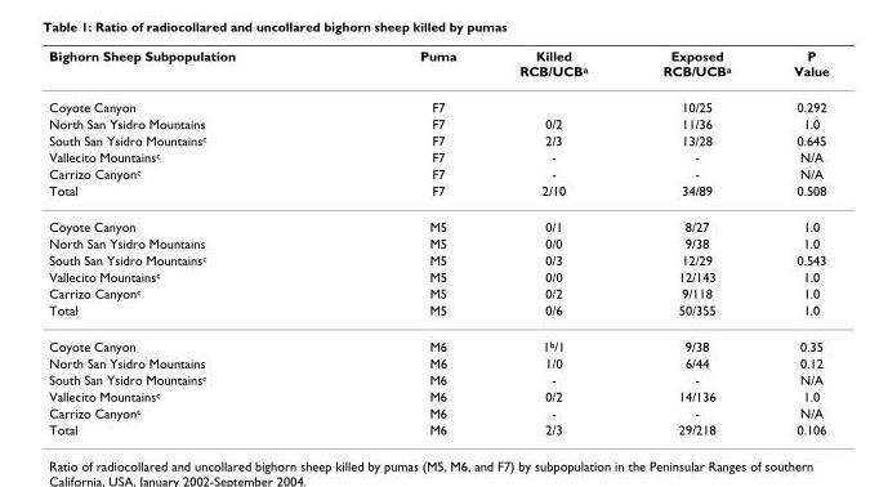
<table><thead><tr><td>Bighorn Sheep Subpopulation</td><td>Puma</td><td>Killed RCB/UCB<sup>a</sup></td><td>Exposed RCB/UCB<sup>a</sup></td><td>P Value</td></tr></thead><tbody><tr><td>Coyote Canyon</td><td>F7</td><td></td><td>10/25</td><td>0.292</td></tr><tr><td>North San Ysidro Mountains</td><td>F7</td><td>0/2</td><td>11/36</td><td>1.0</td></tr><tr><td>South San Ysidro Mountains<sup>c</sup></td><td>F7</td><td>2/3</td><td>13/28</td><td>0.645</td></tr><tr><td>Vallecito Mountains<sup>c</sup></td><td>F7</td><td>-</td><td>-</td><td>N/A</td></tr><tr><td>Carrizo Canyon<sup>c</sup></td><td>F7</td><td>-</td><td>-</td><td>N/A</td></tr><tr><td>Total</td><td>F7</td><td>2/10</td><td>34/89</td><td>0.508</td></tr><tr><td>Coyote Canyon</td><td>M5</td><td>0/1</td><td>8/27</td><td>1.0</td></tr><tr><td>North San Ysidro Mountains</td><td>M5</td><td>0/0</td><td>9/38</td><td>1.0</td></tr><tr><td>South San Ysidro Mountains<sup>c</sup></td><td>M5</td><td>0/3</td><td>12/29</td><td>0.543</td></tr><tr><td>Vallecito Mountains<sup>c</sup></td><td>M5</td><td>0/0</td><td>12/143</td><td>1.0</td></tr><tr><td>Carrizo Canyon<sup>c</sup></td><td>M5</td><td>0/2</td><td>9/118</td><td>1.0</td></tr><tr><td>Total</td><td>M5</td><td>0/6</td><td>50/355</td><td>1.0</td></tr><tr><td>Coyote Canyon</td><td>M6</td><td>1<sup>b</sup>/1</td><td>9/38</td><td>0.35</td></tr><tr><td>North San Ysidro Mountains</td><td>M6</td><td>1/0</td><td>6/44</td><td>0.12</td></tr><tr><td>South San Ysidro Mountains<sup>c</sup></td><td>M6</td><td>-</td><td>-</td><td>N/A</td></tr><tr><td>Vallecito Mountains<sup>c</sup></td><td>M6</td><td>0/2</td><td>14/136</td><td>1.0</td></tr><tr><td>Carrizo Canyon<sup>c</sup></td><td>M6</td><td>-</td><td>-</td><td>N/A</td></tr><tr><td>Total</td><td>M6</td><td>2/3</td><td>29/218</td><td>0.106</td></tr></tbody></table>